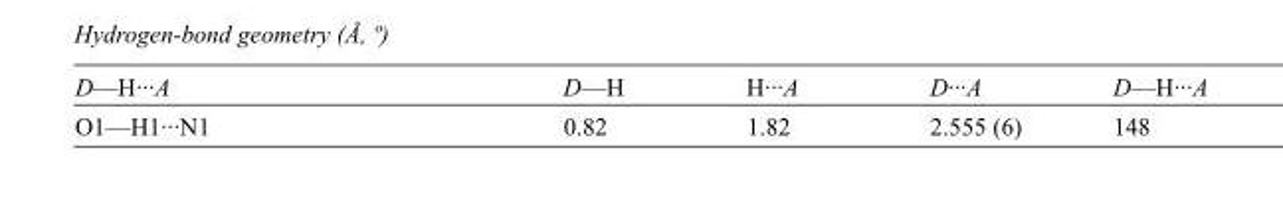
<table><tbody><tr><td>D—H···A</td><td>D—H</td><td>H···A</td><td>D···A</td><td>D—H···A</td></tr><tr><td>O1—H1···N1</td><td>0.82</td><td>1.82</td><td>2.555 (6)</td><td>148</td></tr></tbody></table>